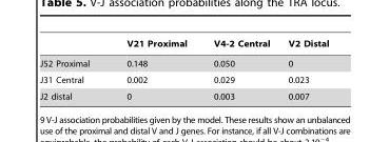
<table><thead><tr><td></td><td>V21 Proximal</td><td>V4-2 Central</td><td>V2 Distal</td></tr></thead><tbody><tr><td>J52 Proximal</td><td>0.148</td><td>0.050</td><td>0</td></tr><tr><td>J31 Central</td><td>0.002</td><td>0.029</td><td>0.023</td></tr><tr><td>J2 distal</td><td>0</td><td>0.003</td><td>0.007</td></tr></tbody></table>